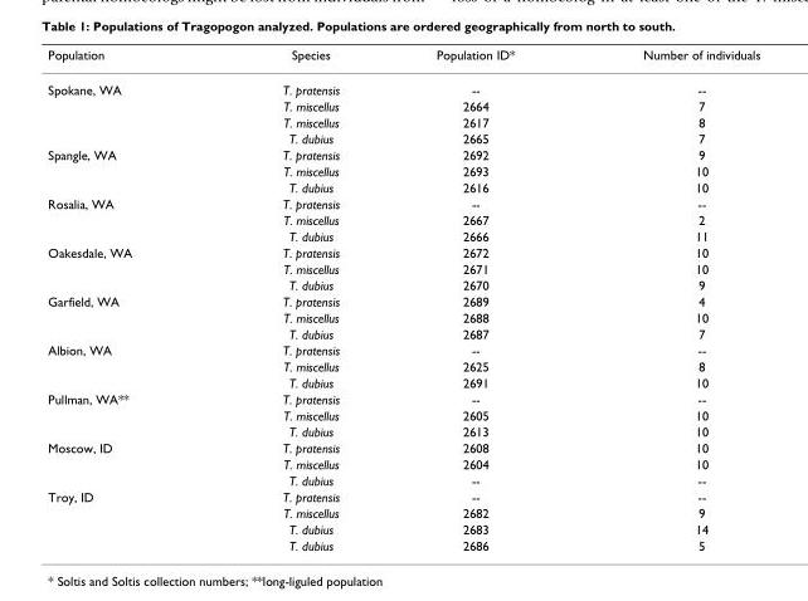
<table><thead><tr><td>Population</td><td>Species</td><td>Population ID*</td><td>Number of individuals</td></tr></thead><tbody><tr><td rowspan="4">Spokane, WA</td><td>T. pratensis</td><td>--</td><td>--</td></tr><tr><td>T. miscellus</td><td>2664</td><td>7</td></tr><tr><td>T. miscellus</td><td>2617</td><td>8</td></tr><tr><td>T. dubius</td><td>2665</td><td>7</td></tr><tr><td rowspan="3">Spangle, WA</td><td>T. pratensis</td><td>2692</td><td>9</td></tr><tr><td>T. miscellus</td><td>2693</td><td>10</td></tr><tr><td>T. dubius</td><td>2616</td><td>10</td></tr><tr><td rowspan="3">Rosalia, WA</td><td>T. pratensis</td><td>--</td><td>--</td></tr><tr><td>T. miscellus</td><td>2667</td><td>2</td></tr><tr><td>T. dubius</td><td>2666</td><td>11</td></tr><tr><td rowspan="3">Oakesdale, WA</td><td>T. pratensis</td><td>2672</td><td>10</td></tr><tr><td>T. miscellus</td><td>2671</td><td>10</td></tr><tr><td>T. dubius</td><td>2670</td><td>9</td></tr><tr><td rowspan="3">Garfield, WA</td><td>T. pratensis</td><td>2689</td><td>4</td></tr><tr><td>T. miscellus</td><td>2688</td><td>10</td></tr><tr><td>T. dubius</td><td>2687</td><td>7</td></tr><tr><td rowspan="3">Albion, WA</td><td>T. pratensis</td><td>--</td><td>--</td></tr><tr><td>T. miscellus</td><td>2625</td><td>8</td></tr><tr><td>T. dubius</td><td>2691</td><td>10</td></tr><tr><td rowspan="3">Pullman, WA**</td><td>T. pratensis</td><td>--</td><td>--</td></tr><tr><td>T. miscellus</td><td>2605</td><td>10</td></tr><tr><td>T. dubius</td><td>2613</td><td>10</td></tr><tr><td rowspan="3">Moscow, ID</td><td>T. pratensis</td><td>2608</td><td>10</td></tr><tr><td>T. miscellus</td><td>2604</td><td>10</td></tr><tr><td>T. dubius</td><td>--</td><td>--</td></tr><tr><td rowspan="4">Troy, ID</td><td>T. pratensis</td><td>--</td><td>--</td></tr><tr><td>T. miscellus</td><td>2682</td><td>9</td></tr><tr><td>T. dubius</td><td>2683</td><td>14</td></tr><tr><td>T. dubius</td><td>2686</td><td>5</td></tr></tbody></table>